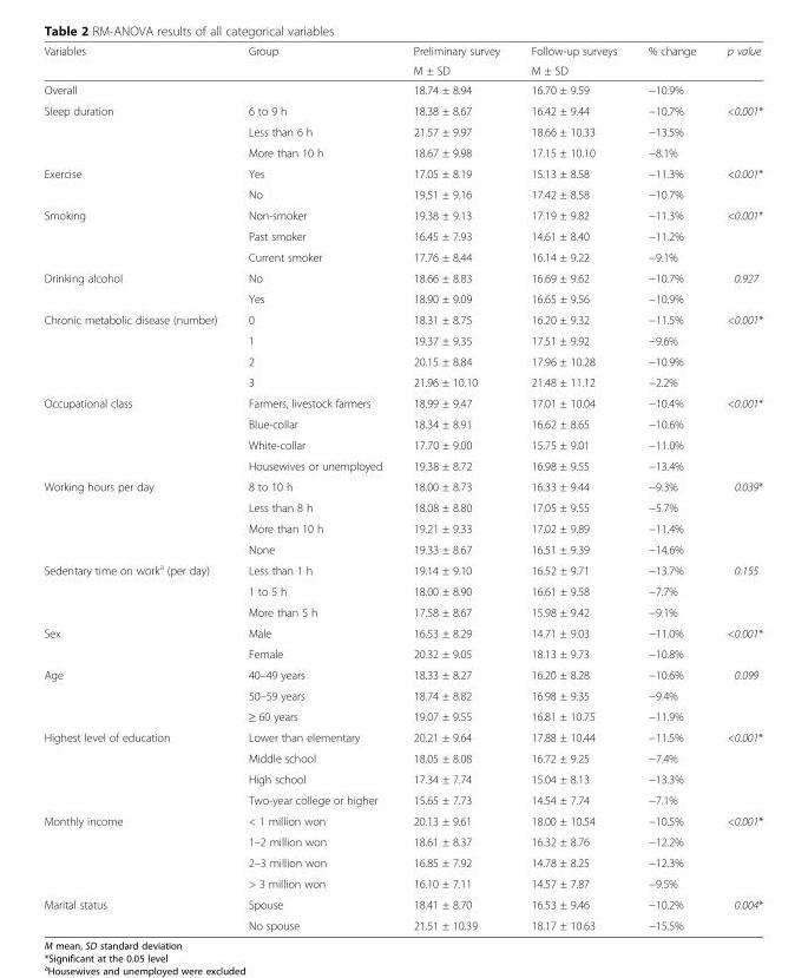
<table><thead><tr><td rowspan="2">Variables</td><td rowspan="2">Group</td><td rowspan="2">Preliminary survey M ± SD</td><td rowspan="2">Follow-up surveys M ± SD</td><td rowspan="2">% change</td><td rowspan="2">p value</td></tr><tr></tr></thead><tbody><tr><td>Overall</td><td></td><td>18.74 ± 8.94</td><td>16.70 ± 9.59</td><td>−10.9%</td><td></td></tr><tr><td rowspan="3">Sleep duration</td><td>6 to 9 h</td><td>18.38 ± 8.67</td><td>16.42 ± 9.44</td><td>−10.7%</td><td rowspan="3">&lt;0.001*</td></tr><tr><td>Less than 6 h</td><td>21.57 ± 9.97</td><td>18.66 ± 10.33</td><td>−13.5%</td></tr><tr><td>More than 10 h</td><td>18.67 ± 9.98</td><td>17.15 ± 10.10</td><td>−8.1%</td></tr><tr><td rowspan="2">Exercise</td><td>Yes</td><td>17.05 ± 8.19</td><td>15.13 ± 8.58</td><td>−11.3%</td><td rowspan="2">&lt;0.001*</td></tr><tr><td>No</td><td>19.51 ± 9.16</td><td>17.42 ± 8.58</td><td>−10.7%</td></tr><tr><td rowspan="3">Smoking</td><td>Non-smoker</td><td>19.38 ± 9.13</td><td>17.19 ± 9.82</td><td>−11.3%</td><td rowspan="3">&lt;0.001*</td></tr><tr><td>Past smoker</td><td>16.45 ± 7.93</td><td>14.61 ± 8.40</td><td>−11.2%</td></tr><tr><td>Current smoker</td><td>17.76 ± 8.44</td><td>16.14 ± 9.22</td><td>−9.1%</td></tr><tr><td rowspan="2">Drinking alcohol</td><td>No</td><td>18.66 ± 8.83</td><td>16.69 ± 9.62</td><td>−10.7%</td><td rowspan="2">0.927</td></tr><tr><td>Yes</td><td>18.90 ± 9.09</td><td>16.65 ± 9.56</td><td>−10.9%</td></tr><tr><td rowspan="4">Chronic metabolic disease (number)</td><td>0</td><td>18.31 ± 8.75</td><td>16.20 ± 9.32</td><td>−11.5%</td><td rowspan="4">&lt;0.001*</td></tr><tr><td>1</td><td>19.37 ± 9.35</td><td>17.51 ± 9.92</td><td>−9.6%</td></tr><tr><td>2</td><td>20.15 ± 8.84</td><td>17.96 ± 10.28</td><td>−10.9%</td></tr><tr><td>3</td><td>21.96 ± 10.10</td><td>21.48 ± 11.12</td><td>−2.2%</td></tr><tr><td rowspan="4">Occupational class</td><td>Farmers, livestock farmers</td><td>18.99 ± 9.47</td><td>17.01 ± 10.04</td><td>−10.4%</td><td rowspan="4">&lt;0.001*</td></tr><tr><td>Blue-collar</td><td>18.34 ± 8.91</td><td>16.62 ± 8.65</td><td>−10.6%</td></tr><tr><td>White-collar</td><td>17.70 ± 9.00</td><td>15.75 ± 9.01</td><td>−11.0%</td></tr><tr><td>Housewives or unemployed</td><td>19.38 ± 8.72</td><td>16.98 ± 9.55</td><td>−13.4%</td></tr><tr><td rowspan="4">Working hours per day</td><td>8 to 10 h</td><td>18.00 ± 8.73</td><td>16.33 ± 9.44</td><td>−9.3%</td><td rowspan="4">0.039*</td></tr><tr><td>Less than 8 h</td><td>18.08 ± 8.80</td><td>17.05 ± 9.55</td><td>−5.7%</td></tr><tr><td>More than 10 h</td><td>19.21 ± 9.33</td><td>17.02 ± 9.89</td><td>−11.4%</td></tr><tr><td>None</td><td>19.33 ± 8.67</td><td>16.51 ± 9.39</td><td>−14.6%</td></tr><tr><td rowspan="3">Sedentary time on work<sup>a</sup> (per day)</td><td>Less than 1 h</td><td>19.14 ± 9.10</td><td>16.52 ± 9.71</td><td>−13.7%</td><td rowspan="3">0.155</td></tr><tr><td>1 to 5 h</td><td>18.00 ± 8.90</td><td>16.61 ± 9.58</td><td>−7.7%</td></tr><tr><td>More than 5 h</td><td>17.58 ± 8.67</td><td>15.98 ± 9.42</td><td>−9.1%</td></tr><tr><td rowspan="2">Sex</td><td>Male</td><td>16.53 ± 8.29</td><td>14.71 ± 9.03</td><td>−11.0%</td><td rowspan="2">&lt;0.001*</td></tr><tr><td>Female</td><td>20.32 ± 9.05</td><td>18.13 ± 9.73</td><td>−10.8%</td></tr><tr><td rowspan="3">Age</td><td>40–49 years</td><td>18.33 ± 8.27</td><td>16.20 ± 8.28</td><td>−10.6%</td><td rowspan="3">0.099</td></tr><tr><td>50–59 years</td><td>18.74 ± 8.82</td><td>16.98 ± 9.35</td><td>−9.4%</td></tr><tr><td>≥ 60 years</td><td>19.07 ± 9.55</td><td>16.81 ± 10.75</td><td>−11.9%</td></tr><tr><td rowspan="4">Highest level of education</td><td>Lower than elementary</td><td>20.21 ± 9.64</td><td>17.88 ± 10.44</td><td>−11.5%</td><td rowspan="4">&lt;0.001*</td></tr><tr><td>Middle school</td><td>18.05 ± 8.08</td><td>16.72 ± 9.25</td><td>−7.4%</td></tr><tr><td>High school</td><td>17.34 ± 7.74</td><td>15.04 ± 8.13</td><td>−13.3%</td></tr><tr><td>Two-year college or higher</td><td>15.65 ± 7.73</td><td>14.54 ± 7.74</td><td>−7.1%</td></tr><tr><td rowspan="4">Monthly income</td><td>&lt; 1 million won</td><td>20.13 ± 9.61</td><td>18.00 ± 10.54</td><td>−10.5%</td><td rowspan="4">&lt;0.001*</td></tr><tr><td>1–2 million won</td><td>18.61 ± 8.37</td><td>16.32 ± 8.76</td><td>−12.2%</td></tr><tr><td>2–3 million won</td><td>16.85 ± 7.92</td><td>14.78 ± 8.25</td><td>−12.3%</td></tr><tr><td>&gt; 3 million won</td><td>16.10 ± 7.11</td><td>14.57 ± 7.87</td><td>−9.5%</td></tr><tr><td rowspan="2">Marital status</td><td>Spouse</td><td>18.41 ± 8.70</td><td>16.53 ± 9.46</td><td>−10.2%</td><td rowspan="2">0.004*</td></tr><tr><td>No spouse</td><td>21.51 ± 10.39</td><td>18.17 ± 10.63</td><td>−15.5%</td></tr></tbody></table>